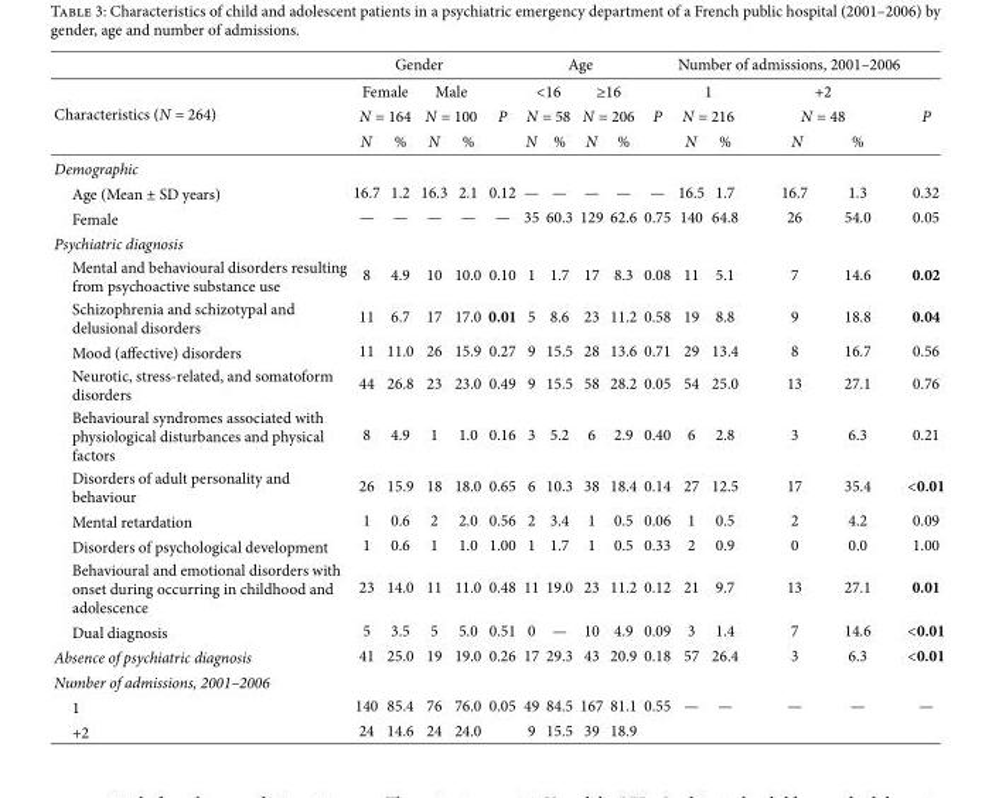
<table><thead><tr><td rowspan="4">Characteristics (N = 264)</td><td colspan="4">Gender</td><td rowspan="4">P</td><td colspan="4">Age</td><td rowspan="4">P</td><td colspan="4">Number of admissions, 2001–2006</td><td rowspan="4">P</td></tr><tr><td rowspan="2" colspan="2">Female N = 164</td><td rowspan="2" colspan="2">Male N = 100</td><td rowspan="2" colspan="2">&lt;16 N = 58</td><td rowspan="2" colspan="2">≥16 N = 206</td><td rowspan="2" colspan="2">1 N = 216</td><td rowspan="2" colspan="2">+2 N = 48</td></tr><tr></tr><tr><td>N</td><td>%</td><td>N</td><td>%</td><td>N</td><td>%</td><td>N</td><td>%</td><td>N</td><td>%</td><td>N</td><td>%</td></tr></thead><tbody><tr><td colspan="16">Demographic</td></tr><tr><td>Age (Mean ± SD years)</td><td>16.7</td><td>1.2</td><td>16.3</td><td>2.1</td><td>0.12</td><td>—</td><td>—</td><td>—</td><td>—</td><td>—</td><td>16.5</td><td>1.7</td><td>16.7</td><td>1.3</td><td>0.32</td></tr><tr><td>Female</td><td>—</td><td>—</td><td>—</td><td>—</td><td>—</td><td>35</td><td>60.3</td><td>129</td><td>62.6</td><td>0.75</td><td>140</td><td>64.8</td><td>26</td><td>54.0</td><td>0.05</td></tr><tr><td colspan="16">Psychiatric diagnosis</td></tr><tr><td>Mental and behavioural disorders resulting from psychoactive substance use</td><td>8</td><td>4.9</td><td>10</td><td>10.0</td><td>0.10</td><td>1</td><td>1.7</td><td>17</td><td>8.3</td><td>0.08</td><td>11</td><td>5.1</td><td>7</td><td>14.6</td><td>0.02</td></tr><tr><td>Schizophrenia and schizotypal and delusional disorders</td><td>11</td><td>6.7</td><td>17</td><td>17.0</td><td>0.01</td><td>5</td><td>8.6</td><td>23</td><td>11.2</td><td>0.58</td><td>19</td><td>8.8</td><td>9</td><td>18.8</td><td>0.04</td></tr><tr><td>Mood (affective) disorders</td><td>11</td><td>11.0</td><td>26</td><td>15.9</td><td>0.27</td><td>9</td><td>15.5</td><td>28</td><td>13.6</td><td>0.71</td><td>29</td><td>13.4</td><td>8</td><td>16.7</td><td>0.56</td></tr><tr><td>Neurotic, stress-related, and somatoform disorders</td><td>44</td><td>26.8</td><td>23</td><td>23.0</td><td>0.49</td><td>9</td><td>15.5</td><td>58</td><td>28.2</td><td>0.05</td><td>54</td><td>25.0</td><td>13</td><td>27.1</td><td>0.76</td></tr><tr><td>Behavioural syndromes associated with physiological disturbances and physical factors</td><td>8</td><td>4.9</td><td>1</td><td>1.0</td><td>0.16</td><td>3</td><td>5.2</td><td>6</td><td>2.9</td><td>0.40</td><td>6</td><td>2.8</td><td>3</td><td>6.3</td><td>0.21</td></tr><tr><td>Disorders of adult personality and behaviour</td><td>26</td><td>15.9</td><td>18</td><td>18.0</td><td>0.65</td><td>6</td><td>10.3</td><td>38</td><td>18.4</td><td>0.14</td><td>27</td><td>12.5</td><td>17</td><td>35.4</td><td>&lt;0.01</td></tr><tr><td>Mental retardation</td><td>1</td><td>0.6</td><td>2</td><td>2.0</td><td>0.56</td><td>2</td><td>3.4</td><td>1</td><td>0.5</td><td>0.06</td><td>1</td><td>0.5</td><td>2</td><td>4.2</td><td>0.09</td></tr><tr><td>Disorders of psychological development</td><td>1</td><td>0.6</td><td>1</td><td>1.0</td><td>1.00</td><td>1</td><td>1.7</td><td>1</td><td>0.5</td><td>0.33</td><td>2</td><td>0.9</td><td>0</td><td>0.0</td><td>1.00</td></tr><tr><td>Behavioural and emotional disorders with onset during occurring in childhood and adolescence</td><td>23</td><td>14.0</td><td>11</td><td>11.0</td><td>0.48</td><td>11</td><td>19.0</td><td>23</td><td>11.2</td><td>0.12</td><td>21</td><td>9.7</td><td>13</td><td>27.1</td><td>0.01</td></tr><tr><td>Dual diagnosis</td><td>5</td><td>3.5</td><td>5</td><td>5.0</td><td>0.51</td><td>0</td><td>—</td><td>10</td><td>4.9</td><td>0.09</td><td>3</td><td>1.4</td><td>7</td><td>14.6</td><td>&lt;0.01</td></tr><tr><td>Absence of psychiatric diagnosis</td><td>41</td><td>25.0</td><td>19</td><td>19.0</td><td>0.26</td><td>17</td><td>29.3</td><td>43</td><td>20.9</td><td>0.18</td><td>57</td><td>26.4</td><td>3</td><td>6.3</td><td>&lt;0.01</td></tr><tr><td colspan="16">Number of admissions, 2001–2006</td></tr><tr><td>1</td><td>140</td><td>85.4</td><td>76</td><td>76.0</td><td>0.05</td><td>49</td><td>84.5</td><td>167</td><td>81.1</td><td>0.55</td><td>—</td><td>—</td><td>—</td><td>—</td><td>—</td></tr><tr><td>+2</td><td>24</td><td>14.6</td><td>24</td><td>24.0</td><td></td><td>9</td><td>15.5</td><td>39</td><td>18.9</td><td></td><td></td><td></td><td></td><td></td><td></td></tr></tbody></table>